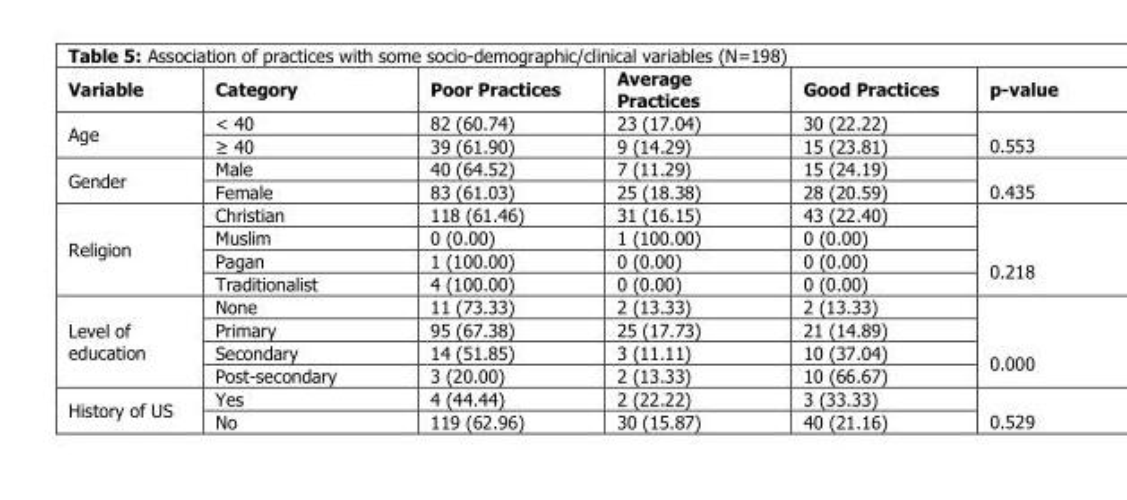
<table><thead><tr><td>Variable</td><td>Category</td><td>Poor Practices</td><td>Average Practices</td><td>Good Practices</td><td>p-value</td></tr></thead><tbody><tr><td rowspan="2">Age</td><td>˂ 40</td><td>82 (60.74)</td><td>23 (17.04)</td><td>30 (22.22)</td><td rowspan="2">0.553</td></tr><tr><td>≥ 40</td><td>39 (61.90)</td><td>9 (14.29)</td><td>15 (23.81)</td></tr><tr><td rowspan="2">Gender</td><td>Male</td><td>40 (64.52)</td><td>7 (11.29)</td><td>15 (24.19)</td><td rowspan="2">0.435</td></tr><tr><td>Female</td><td>83 (61.03)</td><td>25 (18.38)</td><td>28 (20.59)</td></tr><tr><td rowspan="4">Religion</td><td>Christian</td><td>118 (61.46)</td><td>31 (16.15)</td><td>43 (22.40)</td><td rowspan="4">0.218</td></tr><tr><td>Muslim</td><td>0 (0.00)</td><td>1 (100.00)</td><td>0 (0.00)</td></tr><tr><td>Pagan</td><td>1 (100.00)</td><td>0 (0.00)</td><td>0 (0.00)</td></tr><tr><td>Traditionalist</td><td>4 (100.00)</td><td>0 (0.00)</td><td>0 (0.00)</td></tr><tr><td rowspan="4">Level of education</td><td>None</td><td>11 (73.33)</td><td>2 (13.33)</td><td>2 (13.33)</td><td rowspan="4">0.000</td></tr><tr><td>Primary</td><td>95 (67.38)</td><td>25 (17.73)</td><td>21 (14.89)</td></tr><tr><td>Secondary</td><td>14 (51.85)</td><td>3 (11.11)</td><td>10 (37.04)</td></tr><tr><td>Post-secondary</td><td>3 (20.00)</td><td>2 (13.33)</td><td>10 (66.67)</td></tr><tr><td rowspan="2">History of US</td><td>Yes</td><td>4 (44.44)</td><td>2 (22.22)</td><td>3 (33.33)</td><td rowspan="2">0.529</td></tr><tr><td>No</td><td>119 (62.96)</td><td>30 (15.87)</td><td>40 (21.16)</td></tr></tbody></table>